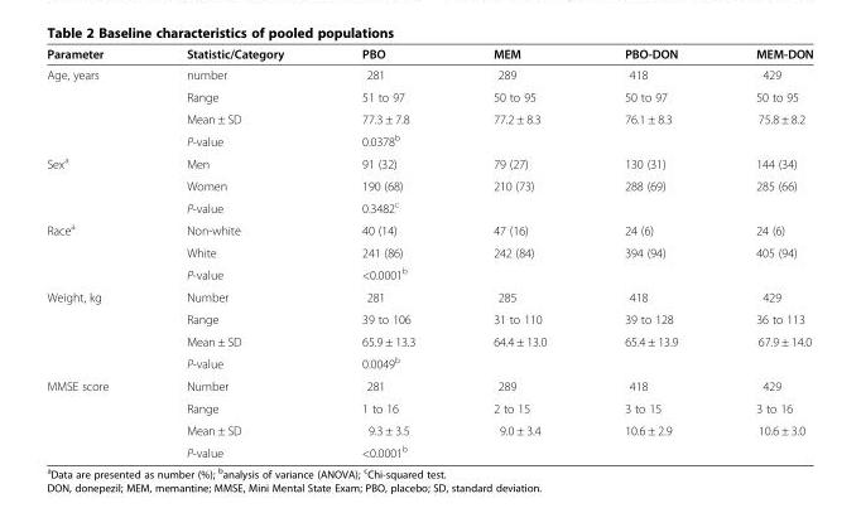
<table><thead><tr><td>Parameter</td><td>Statistic/Category</td><td>PBO</td><td>MEM</td><td>PBO-DON</td><td>MEM-DON</td></tr></thead><tbody><tr><td rowspan="4">Age, years</td><td>number</td><td>281</td><td>289</td><td>418</td><td>429</td></tr><tr><td>Range</td><td>51 to 97</td><td>50 to 95</td><td>50 to 97</td><td>50 to 95</td></tr><tr><td>Mean ± SD</td><td>77.3 ± 7.8</td><td>77.2 ± 8.3</td><td>76.1 ± 8.3</td><td>75.8 ± 8.2</td></tr><tr><td>P-value</td><td colspan="4">0.0378<sup>b</sup></td></tr><tr><td rowspan="3">Sex<sup>a</sup></td><td>Men</td><td>91 (32)</td><td>79 (27)</td><td>130 (31)</td><td>144 (34)</td></tr><tr><td>Women</td><td>190 (68)</td><td>210 (73)</td><td>288 (69)</td><td>285 (66)</td></tr><tr><td>P-value</td><td colspan="4">0.3482<sup>c</sup></td></tr><tr><td rowspan="3">Race<sup>a</sup></td><td>Non-white</td><td>40 (14)</td><td>47 (16)</td><td>24 (6)</td><td>24 (6)</td></tr><tr><td>White</td><td>241 (86)</td><td>242 (84)</td><td>394 (94)</td><td>405 (94)</td></tr><tr><td>P-value</td><td colspan="4">&lt;0.0001<sup>b</sup></td></tr><tr><td rowspan="4">Weight, kg</td><td>Number</td><td>281</td><td>285</td><td>418</td><td>429</td></tr><tr><td>Range</td><td>39 to 106</td><td>31 to 110</td><td>39 to 128</td><td>36 to 113</td></tr><tr><td>Mean ± SD</td><td>65.9 ± 13.3</td><td>64.4 ± 13.0</td><td>65.4 ± 13.9</td><td>67.9 ± 14.0</td></tr><tr><td>P-value</td><td colspan="4">0.0049<sup>b</sup></td></tr><tr><td rowspan="4">MMSE score</td><td>Number</td><td>281</td><td>289</td><td>418</td><td>429</td></tr><tr><td>Range</td><td>1 to 16</td><td>2 to 15</td><td>3 to 15</td><td>3 to 16</td></tr><tr><td>Mean ± SD</td><td>9.3 ± 3.5</td><td>9.0 ± 3.4</td><td>10.6 ± 2.9</td><td>10.6 ± 3.0</td></tr><tr><td>P-value</td><td colspan="4">&lt;0.0001<sup>b</sup></td></tr></tbody></table>